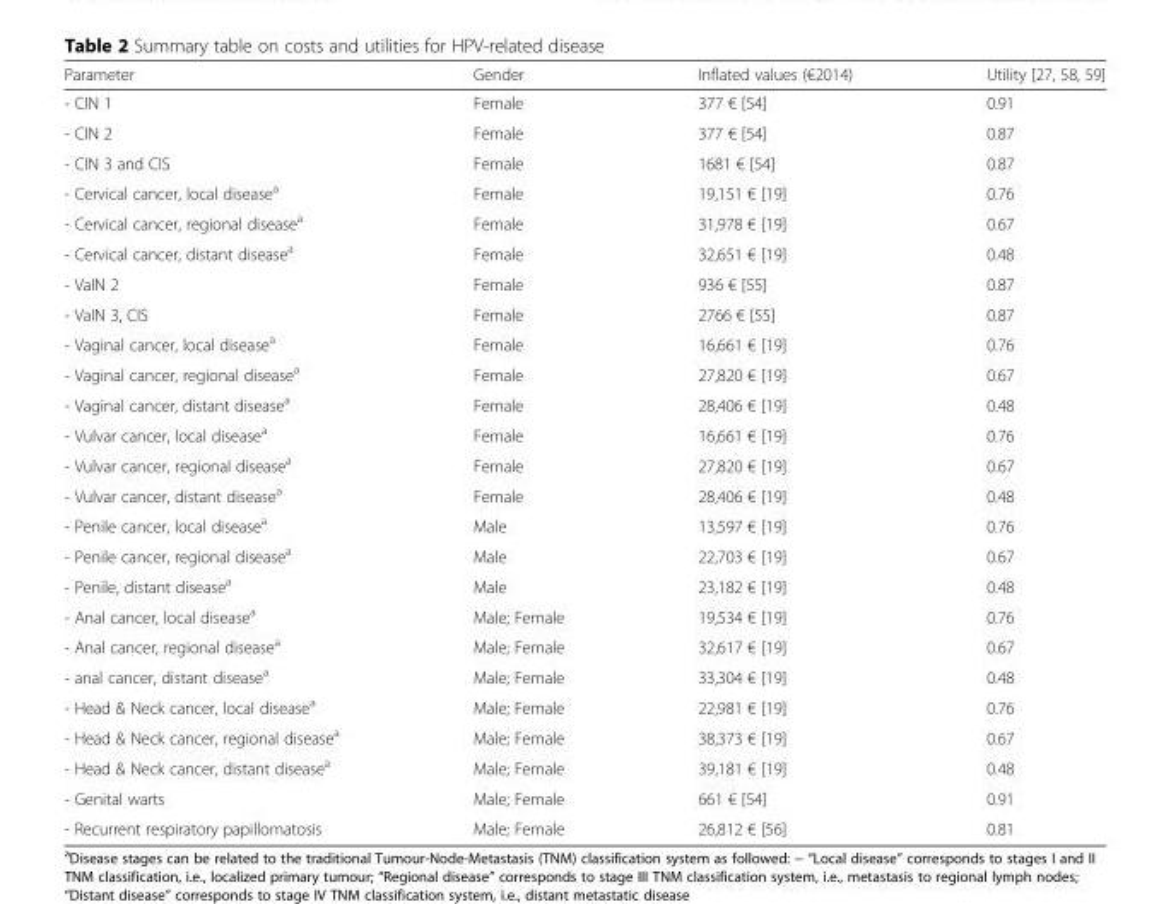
<table><thead><tr><td>Parameter</td><td>Gender</td><td>Inflated values (€2014)</td><td>Utility [27, 58, 59]</td></tr></thead><tbody><tr><td>- CIN 1</td><td>Female</td><td>377 € [54]</td><td>0.91</td></tr><tr><td>- CIN 2</td><td>Female</td><td>377 € [54]</td><td>0.87</td></tr><tr><td>- CIN 3 and CIS</td><td>Female</td><td>1681 € [54]</td><td>0.87</td></tr><tr><td>- Cervical cancer, local disease<sup>a</sup></td><td>Female</td><td>19,151 € [19]</td><td>0.76</td></tr><tr><td>- Cervical cancer, regional disease<sup>a</sup></td><td>Female</td><td>31,978 € [19]</td><td>0.67</td></tr><tr><td>- Cervical cancer, distant disease<sup>a</sup></td><td>Female</td><td>32,651 € [19]</td><td>0.48</td></tr><tr><td>- VaIN 2</td><td>Female</td><td>936 € [55]</td><td>0.87</td></tr><tr><td>- VaIN 3, CIS</td><td>Female</td><td>2766 € [55]</td><td>0.87</td></tr><tr><td>- Vaginal cancer, local disease<sup>a</sup></td><td>Female</td><td>16,661 € [19]</td><td>0.76</td></tr><tr><td>- Vaginal cancer, regional disease<sup>a</sup></td><td>Female</td><td>27,820 € [19]</td><td>0.67</td></tr><tr><td>- Vaginal cancer, distant disease<sup>a</sup></td><td>Female</td><td>28,406 € [19]</td><td>0.48</td></tr><tr><td>- Vulvar cancer, local disease<sup>a</sup></td><td>Female</td><td>16,661 € [19]</td><td>0.76</td></tr><tr><td>- Vulvar cancer, regional disease<sup>a</sup></td><td>Female</td><td>27,820 € [19]</td><td>0.67</td></tr><tr><td>- Vulvar cancer, distant disease<sup>a</sup></td><td>Female</td><td>28,406 € [19]</td><td>0.48</td></tr><tr><td>- Penile cancer, local disease<sup>a</sup></td><td>Male</td><td>13,597 € [19]</td><td>0.76</td></tr><tr><td>- Penile cancer, regional disease<sup>a</sup></td><td>Male</td><td>22,703 € [19]</td><td>0.67</td></tr><tr><td>- Penile, distant disease<sup>a</sup></td><td>Male</td><td>23,182 € [19]</td><td>0.48</td></tr><tr><td>- Anal cancer, local disease<sup>a</sup></td><td>Male; Female</td><td>19,534 € [19]</td><td>0.76</td></tr><tr><td>- Anal cancer, regional disease<sup>a</sup></td><td>Male; Female</td><td>32,617 € [19]</td><td>0.67</td></tr><tr><td>- anal cancer, distant disease<sup>a</sup></td><td>Male; Female</td><td>33,304 € [19]</td><td>0.48</td></tr><tr><td>- Head &amp; Neck cancer, local disease<sup>a</sup></td><td>Male; Female</td><td>22,981 € [19]</td><td>0.76</td></tr><tr><td>- Head &amp; Neck cancer, regional disease<sup>a</sup></td><td>Male; Female</td><td>38,373 € [19]</td><td>0.67</td></tr><tr><td>- Head &amp; Neck cancer, distant disease<sup>a</sup></td><td>Male; Female</td><td>39,181 € [19]</td><td>0.48</td></tr><tr><td>- Genital warts</td><td>Male; Female</td><td>661 € [54]</td><td>0.91</td></tr><tr><td>- Recurrent respiratory papillomatosis</td><td>Male; Female</td><td>26,812 € [56]</td><td>0.81</td></tr></tbody></table>